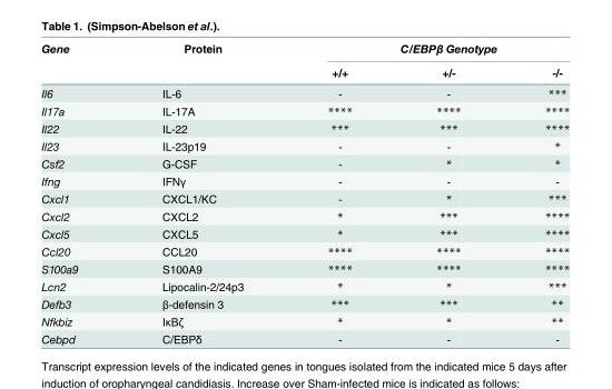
<table><thead><tr><td rowspan="2">Gene</td><td rowspan="2">Protein</td><td colspan="3">C/EBPβ Genotype</td></tr><tr><td>+/+</td><td>+/-</td><td>-/-</td></tr></thead><tbody><tr><td>Il6</td><td>IL-6</td><td>-</td><td>-</td><td>***</td></tr><tr><td>Il17a</td><td>IL-17A</td><td>****</td><td>****</td><td>****</td></tr><tr><td>Il22</td><td>IL-22</td><td>***</td><td>***</td><td>****</td></tr><tr><td>Il23</td><td>IL-23p19</td><td>-</td><td>-</td><td>*</td></tr><tr><td>Csf2</td><td>G-CSF</td><td>-</td><td>*</td><td>*</td></tr><tr><td>Ifng</td><td>IFNγ</td><td>-</td><td>-</td><td>-</td></tr><tr><td>Cxcl1</td><td>CXCL1/KC</td><td>-</td><td>*</td><td>***</td></tr><tr><td>Cxcl2</td><td>CXCL2</td><td>*</td><td>***</td><td>****</td></tr><tr><td>Cxcl5</td><td>CXCL5</td><td>*</td><td>***</td><td>****</td></tr><tr><td>Ccl20</td><td>CCL20</td><td>****</td><td>****</td><td>****</td></tr><tr><td>S100a9</td><td>S100A9</td><td>****</td><td>****</td><td>****</td></tr><tr><td>Lcn2</td><td>Lipocalin-2/24p3</td><td>*</td><td>*</td><td>***</td></tr><tr><td>Defb3</td><td>β-defensin 3</td><td>***</td><td>***</td><td>**</td></tr><tr><td>Nfkbiz</td><td>IκBζ</td><td>*</td><td>*</td><td>**</td></tr><tr><td>Cebpd</td><td>C/EBPδ</td><td>-</td><td>-</td><td>-</td></tr></tbody></table>